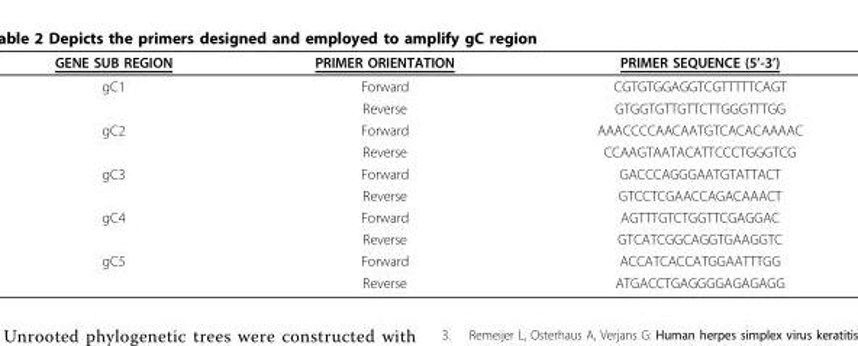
<table><thead><tr><td>GENE SUB REGION</td><td>PRIMER ORIENTATION</td><td>PRIMER SEQUENCE (5’-3’)</td></tr></thead><tbody><tr><td rowspan="2">gC1</td><td>Forward</td><td>CGTGTGGAGGTCGTTTTTCAGT</td></tr><tr><td>Reverse</td><td>GTGGTGTTGTTCTTGGGTTTGG</td></tr><tr><td rowspan="2">gC2</td><td>Forward</td><td>AAACCCCAACAATGTCACACAAAAC</td></tr><tr><td>Reverse</td><td>CCAAGTAATACATTCCCTGGGTCG</td></tr><tr><td rowspan="2">gC3</td><td>Forward</td><td>GACCCAGGGAATGTATTACT</td></tr><tr><td>Reverse</td><td>GTCCTCGAACCAGACAAACT</td></tr><tr><td rowspan="2">gC4</td><td>Forward</td><td>AGTTTGTCTGGTTCGAGGAC</td></tr><tr><td>Reverse</td><td>GTCATCGGCAGGTGAAGGTC</td></tr><tr><td rowspan="2">gC5</td><td>Forward</td><td>ACCATCACCATGGAATTTGG</td></tr><tr><td>Reverse</td><td>ATGACCTGAGGGGAGAGAGG</td></tr></tbody></table>